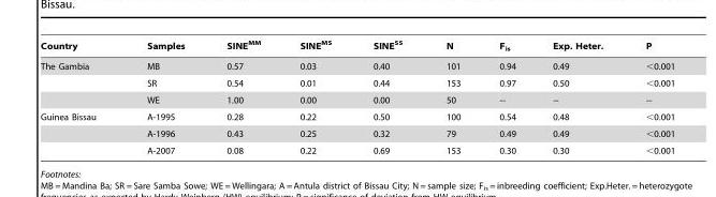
<table><thead><tr><td>Country</td><td>Samples</td><td>SINE<sup>MM</sup></td><td>SINE<sup>MS</sup></td><td>SINE<sup>SS</sup></td><td>N</td><td>F<sub>is</sub></td><td>Exp. Heter.</td><td>P</td></tr></thead><tbody><tr><td rowspan="3">The Gambia</td><td>MB</td><td>0.57</td><td>0.03</td><td>0.40</td><td>101</td><td>0.94</td><td>0.49</td><td>&lt;0.001</td></tr><tr><td>SR</td><td>0.54</td><td>0.01</td><td>0.44</td><td>153</td><td>0.97</td><td>0.50</td><td>&lt;0.001</td></tr><tr><td>WE</td><td>1.00</td><td>0.00</td><td>0.00</td><td>50</td><td>--</td><td>--</td><td>--</td></tr><tr><td rowspan="3">Guinea Bissau</td><td>A-1995</td><td>0.28</td><td>0.22</td><td>0.50</td><td>100</td><td>0.54</td><td>0.48</td><td>&lt;0.001</td></tr><tr><td>A-1996</td><td>0.43</td><td>0.25</td><td>0.32</td><td>79</td><td>0.49</td><td>0.49</td><td>&lt;0.001</td></tr><tr><td>A-2007</td><td>0.08</td><td>0.22</td><td>0.69</td><td>153</td><td>0.30</td><td>0.30</td><td>&lt;0.001</td></tr></tbody></table>